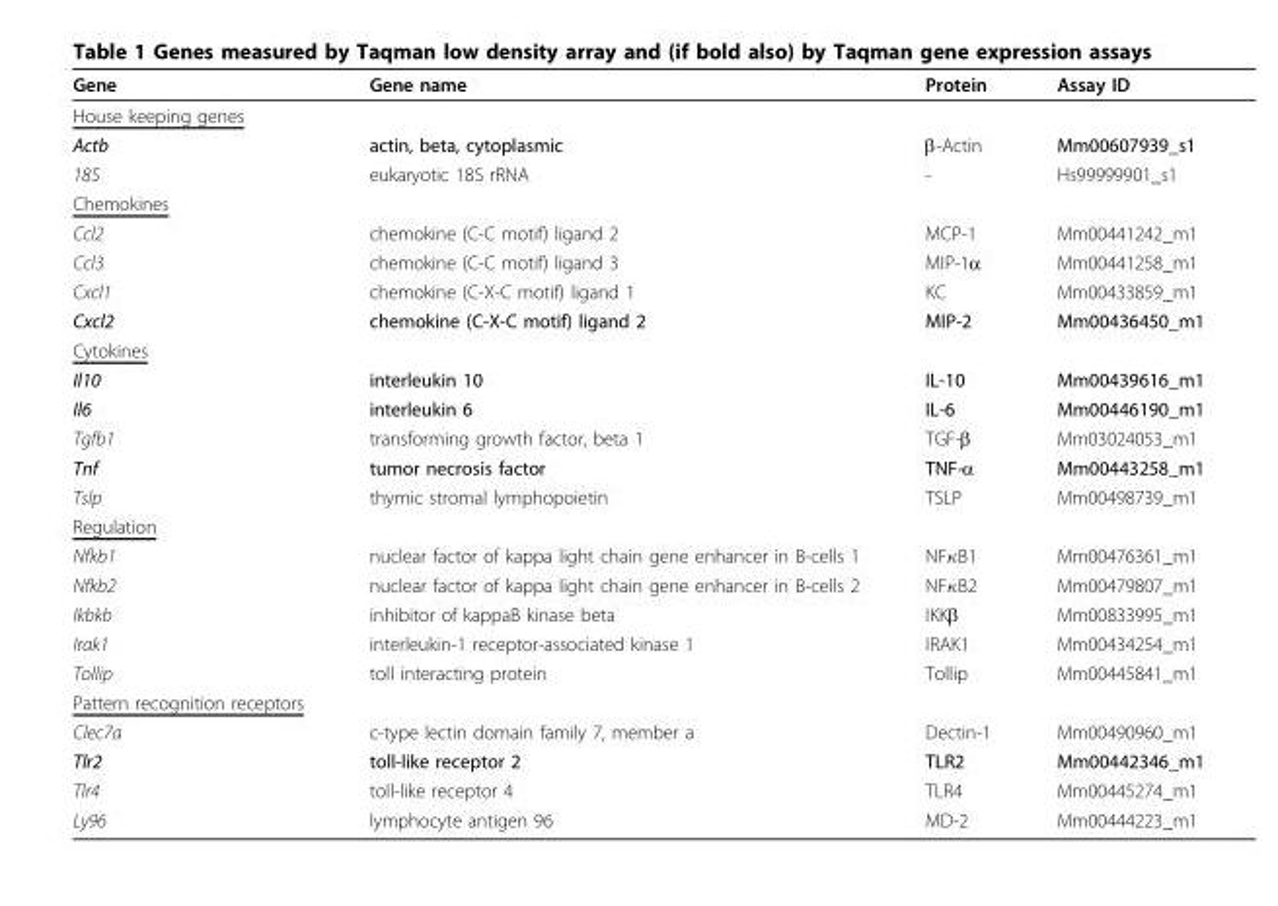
<table><thead><tr><td>Gene</td><td>Gene name</td><td>Protein</td><td>Assay ID</td></tr></thead><tbody><tr><td colspan="4">House keeping genes</td></tr><tr><td>Actb</td><td>actin, beta, cytoplasmic</td><td>β-Actin</td><td>Mm00607939_s1</td></tr><tr><td>18S</td><td>eukaryotic 18S rRNA</td><td>-</td><td>Hs99999901_s1</td></tr><tr><td colspan="4">Chemokines</td></tr><tr><td>Ccl2</td><td>chemokine (C-C motif) ligand 2</td><td>MCP-1</td><td>Mm00441242_m1</td></tr><tr><td>Ccl3</td><td>chemokine (C-C motif) ligand 3</td><td>MIP-1α</td><td>Mm00441258_m1</td></tr><tr><td>Cxcl1</td><td>chemokine (C-X-C motif) ligand 1</td><td>KC</td><td>Mm00433859_m1</td></tr><tr><td>Cxcl2</td><td>chemokine (C-X-C motif) ligand 2</td><td>MIP-2</td><td>Mm00436450_m1</td></tr><tr><td colspan="4">Cytokines</td></tr><tr><td>Il10</td><td>interleukin 10</td><td>IL-10</td><td>Mm00439616_m1</td></tr><tr><td>Il6</td><td>interleukin 6</td><td>IL-6</td><td>Mm00446190_m1</td></tr><tr><td>Tgfb1</td><td>transforming growth factor, beta 1</td><td>TGF-β</td><td>Mm03024053_m1</td></tr><tr><td>Tnf</td><td>tumor necrosis factor</td><td>TNF-α</td><td>Mm00443258_m1</td></tr><tr><td>Tslp</td><td>thymic stromal lymphopoietin</td><td>TSLP</td><td>Mm00498739_m1</td></tr><tr><td colspan="4">Regulation</td></tr><tr><td>Nfkb1</td><td>nuclear factor of kappa light chain gene enhancer in B-cells 1</td><td>NFκB1</td><td>Mm00476361_m1</td></tr><tr><td>Nfkb2</td><td>nuclear factor of kappa light chain gene enhancer in B-cells 2</td><td>NFκB2</td><td>Mm00479807_m1</td></tr><tr><td>Ikbkb</td><td>inhibitor of kappaB kinase beta</td><td>IKKβ</td><td>Mm00833995_m1</td></tr><tr><td>Irak1</td><td>interleukin-1 receptor-associated kinase 1</td><td>IRAK1</td><td>Mm00434254_m1</td></tr><tr><td>Tollip</td><td>toll interacting protein</td><td>Tollip</td><td>Mm00445841_m1</td></tr><tr><td colspan="4">Pattern recognition receptors</td></tr><tr><td>Clec7a</td><td>c-type lectin domain family 7, member a</td><td>Dectin-1</td><td>Mm00490960_m1</td></tr><tr><td>Tlr2</td><td>toll-like receptor 2</td><td>TLR2</td><td>Mm00442346_m1</td></tr><tr><td>Tlr4</td><td>toll-like receptor 4</td><td>TLR4</td><td>Mm00445274_m1</td></tr><tr><td>Ly96</td><td>lymphocyte antigen 96</td><td>MD-2</td><td>Mm00444223_m1</td></tr></tbody></table>